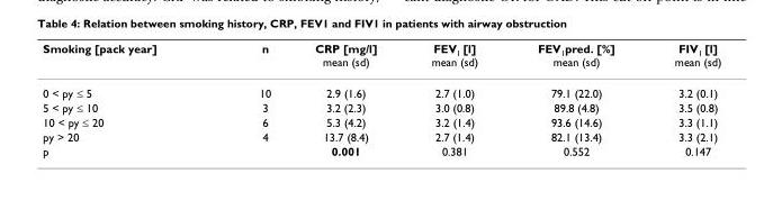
<table><thead><tr><td>Smoking [pack year]</td><td>n</td><td>CRP [mg/l] mean (sd)</td><td>FEV<sub>1</sub> [l] mean (sd)</td><td>FEV<sub>1</sub>pred. [%] mean (sd)</td><td>FIV<sub>1</sub> [l] mean (sd)</td></tr></thead><tbody><tr><td>0 &lt; py ≤ 5</td><td>10</td><td>2.9 (1.6)</td><td>2.7 (1.0)</td><td>79.1 (22.0)</td><td>3.2 (0.1)</td></tr><tr><td>5 &lt; py ≤ 10</td><td>3</td><td>3.2 (2.3)</td><td>3.0 (0.8)</td><td>89.8 (4.8)</td><td>3.5 (0.8)</td></tr><tr><td>10 &lt; py ≤ 20</td><td>6</td><td>5.3 (4.2)</td><td>3.2 (1.4)</td><td>93.6 (14.6)</td><td>3.3 (1.1)</td></tr><tr><td>py &gt; 20</td><td>4</td><td>13.7 (8.4)</td><td>2.7 (1.4)</td><td>82.1 (13.4)</td><td>3.3 (2.1)</td></tr><tr><td>p</td><td></td><td>0.001</td><td>0.381</td><td>0.552</td><td>0.147</td></tr></tbody></table>